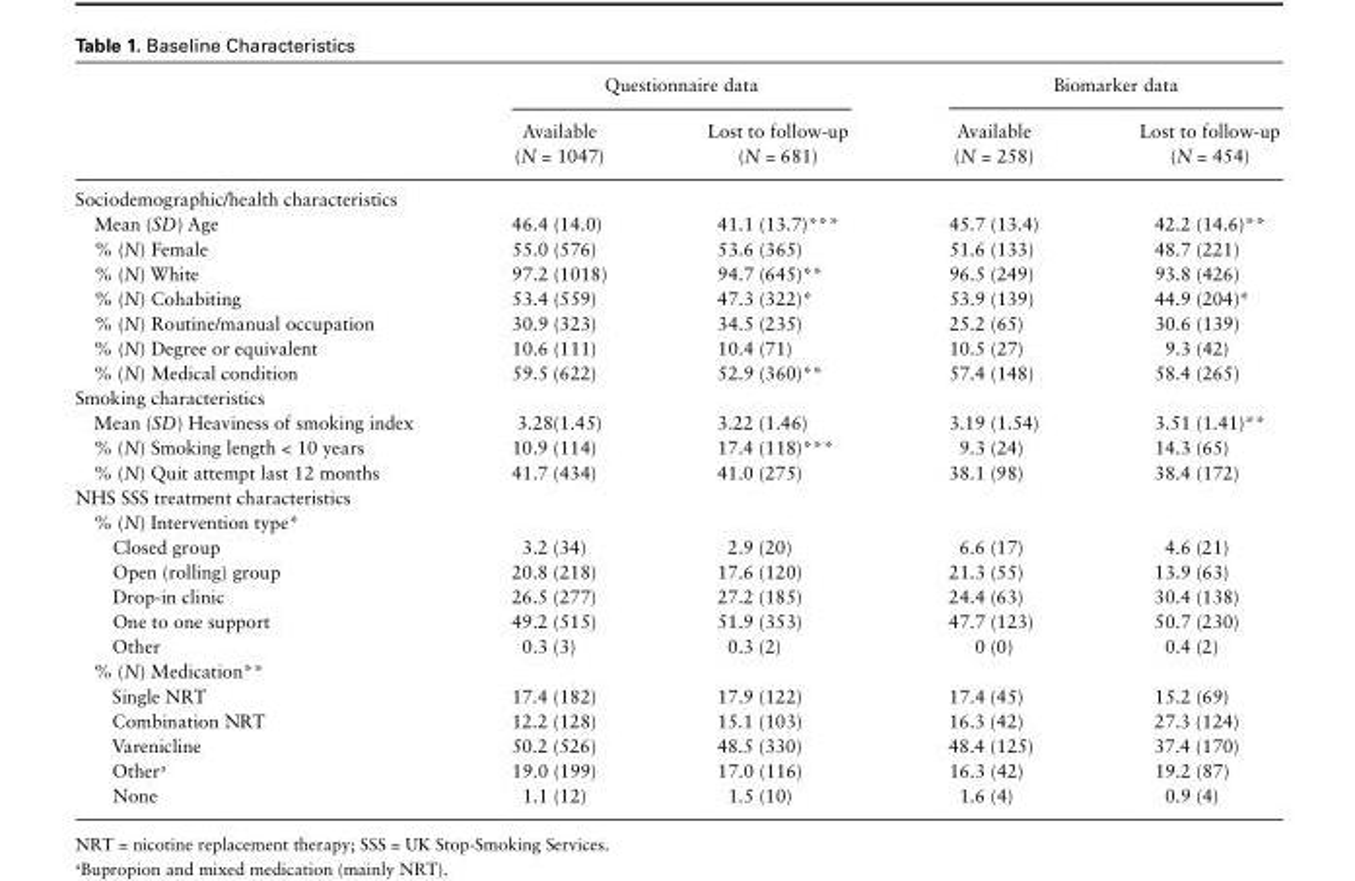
<table><thead><tr><td rowspan="2"></td><td colspan="2">Questionnaire data</td><td colspan="2">Biomarker data</td></tr><tr><td>Available (N = 1047)</td><td>Lost to follow-up (N = 681)</td><td>Available (N = 258)</td><td>Lost to follow-up (N = 454)</td></tr></thead><tbody><tr><td colspan="5">Sociodemographic/health characteristics</td></tr><tr><td>Mean (SD) Age</td><td>46.4 (14.0)</td><td>41.1 (13.7)***</td><td>45.7 (13.4)</td><td>42.2 (14.6)**</td></tr><tr><td>% (N) Female</td><td>55.0 (576)</td><td>53.6 (365)</td><td>51.6 (133)</td><td>48.7 (221)</td></tr><tr><td>% (N) White</td><td>97.2 (1018)</td><td>94.7 (645)**</td><td>96.5 (249)</td><td>93.8 (426)</td></tr><tr><td>% (N) Cohabiting</td><td>53.4 (559)</td><td>47.3 (322)*</td><td>53.9 (139)</td><td>44.9 (204)*</td></tr><tr><td>% (N) Routine/manual occupation</td><td>30.9 (323)</td><td>34.5 (235)</td><td>25.2 (65)</td><td>30.6 (139)</td></tr><tr><td>% (N) Degree or equivalent</td><td>10.6 (111)</td><td>10.4 (71)</td><td>10.5 (27)</td><td>9.3 (42)</td></tr><tr><td>% (N) Medical condition</td><td>59.5 (622)</td><td>52.9 (360)**</td><td>57.4 (148)</td><td>58.4 (265)</td></tr><tr><td colspan="5">Smoking characteristics</td></tr><tr><td>Mean (SD) Heaviness of smoking index</td><td>3.28(1.45)</td><td>3.22 (1.46)</td><td>3.19 (1.54)</td><td>3.51 (1.41)**</td></tr><tr><td>% (N) Smoking length &lt; 10 years</td><td>10.9 (114)</td><td>17.4 (118)***</td><td>9.3 (24)</td><td>14.3 (65)</td></tr><tr><td>% (N) Quit attempt last 12 months</td><td>41.7 (434)</td><td>41.0 (275)</td><td>38.1 (98)</td><td>38.4 (172)</td></tr><tr><td colspan="5">NHS SSS treatment characteristics</td></tr><tr><td colspan="5">% (N) Intervention type*</td></tr><tr><td>Closed group</td><td>3.2 (34)</td><td>2.9 (20)</td><td>6.6 (17)</td><td>4.6 (21)</td></tr><tr><td>Open (rolling) group</td><td>20.8 (218)</td><td>17.6 (120)</td><td>21.3 (55)</td><td>13.9 (63)</td></tr><tr><td>Drop-in clinic</td><td>26.5 (277)</td><td>27.2 (185)</td><td>24.4 (63)</td><td>30.4 (138)</td></tr><tr><td>One to one support</td><td>49.2 (515)</td><td>51.9 (353)</td><td>47.7 (123)</td><td>50.7 (230)</td></tr><tr><td>Other</td><td>0.3 (3)</td><td>0.3 (2)</td><td>0 (0)</td><td>0.4 (2)</td></tr><tr><td colspan="5">% (N) Medication**</td></tr><tr><td>Single NRT</td><td>17.4 (182)</td><td>17.9 (122)</td><td>17.4 (45)</td><td>15.2 (69)</td></tr><tr><td>Combination NRT</td><td>12.2 (128)</td><td>15.1 (103)</td><td>16.3 (42)</td><td>27.3 (124)</td></tr><tr><td>Varenicline</td><td>50.2 (526)</td><td>48.5 (330)</td><td>48.4 (125)</td><td>37.4 (170)</td></tr><tr><td>Other<sup>a</sup></td><td>19.0 (199)</td><td>17.0 (116)</td><td>16.3 (42)</td><td>19.2 (87)</td></tr><tr><td>None</td><td>1.1 (12)</td><td>1.5 (10)</td><td>1.6 (4)</td><td>0.9 (4)</td></tr></tbody></table>